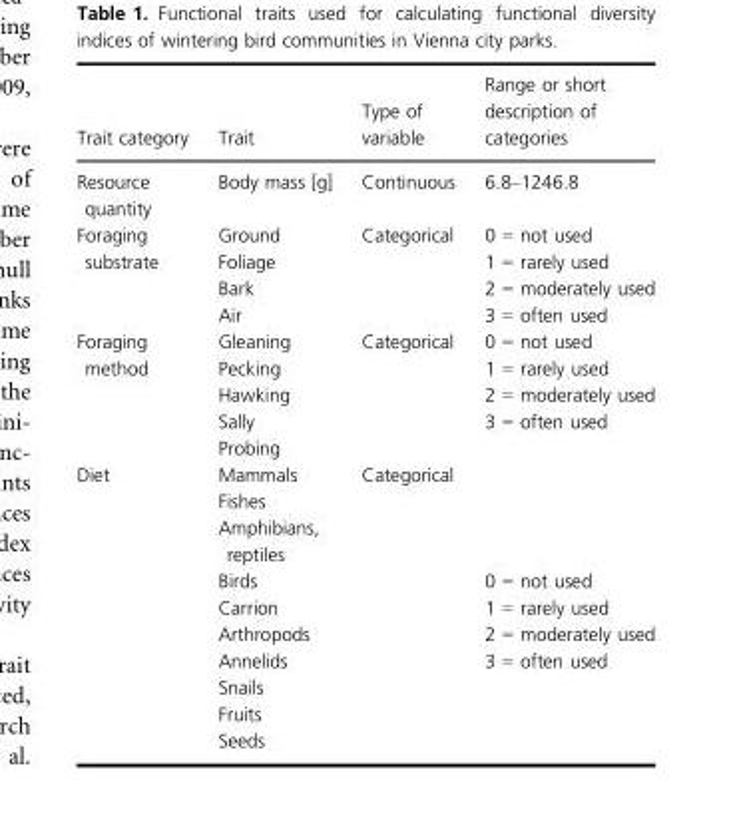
<table><thead><tr><td>Trait category</td><td>Trait</td><td>Type of variable</td><td>Range or short description of categories</td></tr></thead><tbody><tr><td>Resource quantity</td><td>Body mass [g]</td><td>Continuous</td><td>6.8–1246.8</td></tr><tr><td rowspan="4">Foraging substrate</td><td>Ground</td><td rowspan="4">Categorical</td><td>0 = not used</td></tr><tr><td>Foliage</td><td>1 = rarely used</td></tr><tr><td>Bark</td><td>2 = moderately used</td></tr><tr><td>Air</td><td>3 = often used</td></tr><tr><td rowspan="5">Foraging method</td><td>Gleaning</td><td rowspan="5">Categorical</td><td>0 = not used</td></tr><tr><td>Pecking</td><td>1 = rarely used</td></tr><tr><td>Hawking</td><td>2 = moderately used</td></tr><tr><td>Sally</td><td>3 = often used</td></tr><tr><td>Probing</td><td></td></tr><tr><td rowspan="10">Diet</td><td>Mammals</td><td rowspan="10">Categorical</td><td></td></tr><tr><td>Fishes</td><td></td></tr><tr><td>Amphibians, reptiles</td><td></td></tr><tr><td>Birds</td><td>0 = not used</td></tr><tr><td>Carrion</td><td>1 = rarely used</td></tr><tr><td>Arthropods</td><td>2 = moderately used</td></tr><tr><td>Annelids</td><td>3 = often used</td></tr><tr><td>Snails</td><td></td></tr><tr><td>Fruits</td><td></td></tr><tr><td>Seeds</td><td></td></tr></tbody></table>